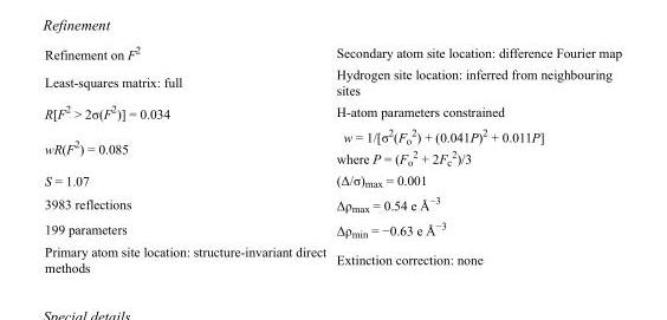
<table><tbody><tr><td>Refinement on F<sup>2</sup></td><td>Secondary atom site location: difference Fourier map</td></tr><tr><td>Least-squares matrix: full</td><td>Hydrogen site location: inferred from neighbouring sites</td></tr><tr><td>R[F<sup>2</sup> &gt; 2σ(F<sup>2</sup>)] = 0.034</td><td>H-atom parameters constrained</td></tr><tr><td>wR(F<sup>2</sup>) = 0.085</td><td>w = 1/[σ<sup>2</sup>(F<sub>o</sub> <sup>2</sup>) + (0.041P)<sup>2</sup> + 0.011P] where P = (F<sub>o</sub> <sup>2</sup> + 2F<sub>c</sub> <sup>2</sup>)/3</td></tr><tr><td>S = 1.07</td><td>(Δ/σ)<sub>max</sub> = 0.001</td></tr><tr><td>3983 reflections</td><td>Δρ<sub>max</sub> = 0.54 e Å<sup>−3</sup></td></tr><tr><td>199 parameters</td><td>Δρ<sub>min</sub> = −0.63 e Å<sup>−3</sup></td></tr><tr><td>Primary atom site location: structure-invariant direct methods</td><td>Extinction correction: none</td></tr></tbody></table>